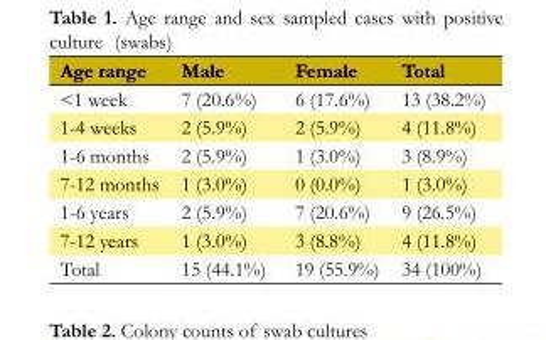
<table><tbody><tr><td>Age range</td><td>Male</td><td>Female</td><td>Total</td></tr><tr><td>&lt;1 week</td><td>7 (20.6%)</td><td>6 (17.6%)</td><td>13 (38.2%)</td></tr><tr><td>1-4 weeks</td><td>2 (5.9%)</td><td>2 (5.9%)</td><td>4 (11.8%)</td></tr><tr><td>1-6 months</td><td>2 (5.9%)</td><td>1 (3.0%)</td><td>3 (8.9%)</td></tr><tr><td>7-12 months</td><td>1 (3.0%)</td><td>0 (0.0%)</td><td>1 (3.0%)</td></tr><tr><td>1-6 years</td><td>2 (5.9%)</td><td>7 (20.6%)</td><td>9 (26.5%)</td></tr><tr><td>7-12 years</td><td>1 (3.0%)</td><td>3 (8.8%)</td><td>4 (11.8%)</td></tr><tr><td>Total</td><td>15 (44.1%)</td><td>19 (55.9%)</td><td>34 (100%)</td></tr></tbody></table>